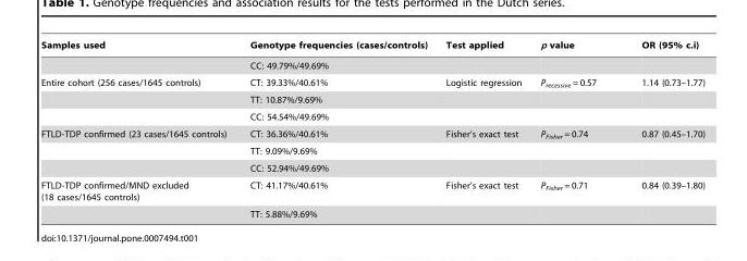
<table><thead><tr><td>Samples used</td><td>Genotype frequencies (cases/controls)</td><td>Test applied</td><td>p value</td><td>OR (95% c.i)</td></tr></thead><tbody><tr><td></td><td>CC: 49.79%/49.69%</td><td></td><td></td><td></td></tr><tr><td rowspan="3">Entire cohort (256 cases/1645 controls)</td><td>CT: 39.33%/40.61%</td><td>Logistic regression</td><td>P<sub>recessive</sub> = 0.57</td><td>1.14 (0.73–1.77)</td></tr><tr><td>TT: 10.87%/9.69%</td><td></td><td></td><td></td></tr><tr><td>CC: 54.54%/49.69%</td><td></td><td></td><td></td></tr><tr><td rowspan="3">FTLD-TDP confirmed (23 cases/1645 controls)</td><td>CT: 36.36%/40.61%</td><td>Fisher’s exact test</td><td>P<sub>Fisher</sub> = 0.74</td><td>0.87 (0.45–1.70)</td></tr><tr><td>TT: 9.09%/9.69%</td><td></td><td></td><td></td></tr><tr><td>CC: 52.94%/49.69%</td><td></td><td></td><td></td></tr><tr><td rowspan="2">FTLD-TDP confirmed/MND excluded (18 cases/1645 controls)</td><td>CT: 41.17%/40.61%</td><td>Fisher’s exact test</td><td>P<sub>Fisher</sub> = 0.71</td><td>0.84 (0.39–1.80)</td></tr><tr><td>TT: 5.88%/9.69%</td><td></td><td></td><td></td></tr></tbody></table>